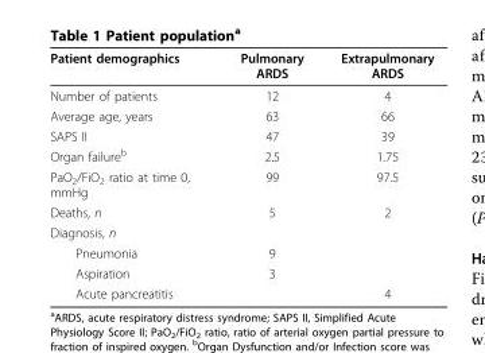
<table><thead><tr><td>Patient demographics</td><td>Pulmonary ARDS</td><td>Extrapulmonary ARDS</td></tr></thead><tbody><tr><td>Number of patients</td><td>12</td><td>4</td></tr><tr><td>Average age, years</td><td>63</td><td>66</td></tr><tr><td>SAPS II</td><td>47</td><td>39</td></tr><tr><td>Organ failure<sup>b</sup></td><td>2.5</td><td>1.75</td></tr><tr><td>PaO<sub>2</sub>/FiO<sub>2</sub> ratio at time 0, mmHg</td><td>99</td><td>97.5</td></tr><tr><td>Deaths, n</td><td>5</td><td>2</td></tr><tr><td colspan="3">Diagnosis, n</td></tr><tr><td>Pneumonia</td><td>9</td><td></td></tr><tr><td>Aspiration</td><td>3</td><td></td></tr><tr><td>Acute pancreatitis</td><td></td><td>4</td></tr></tbody></table>